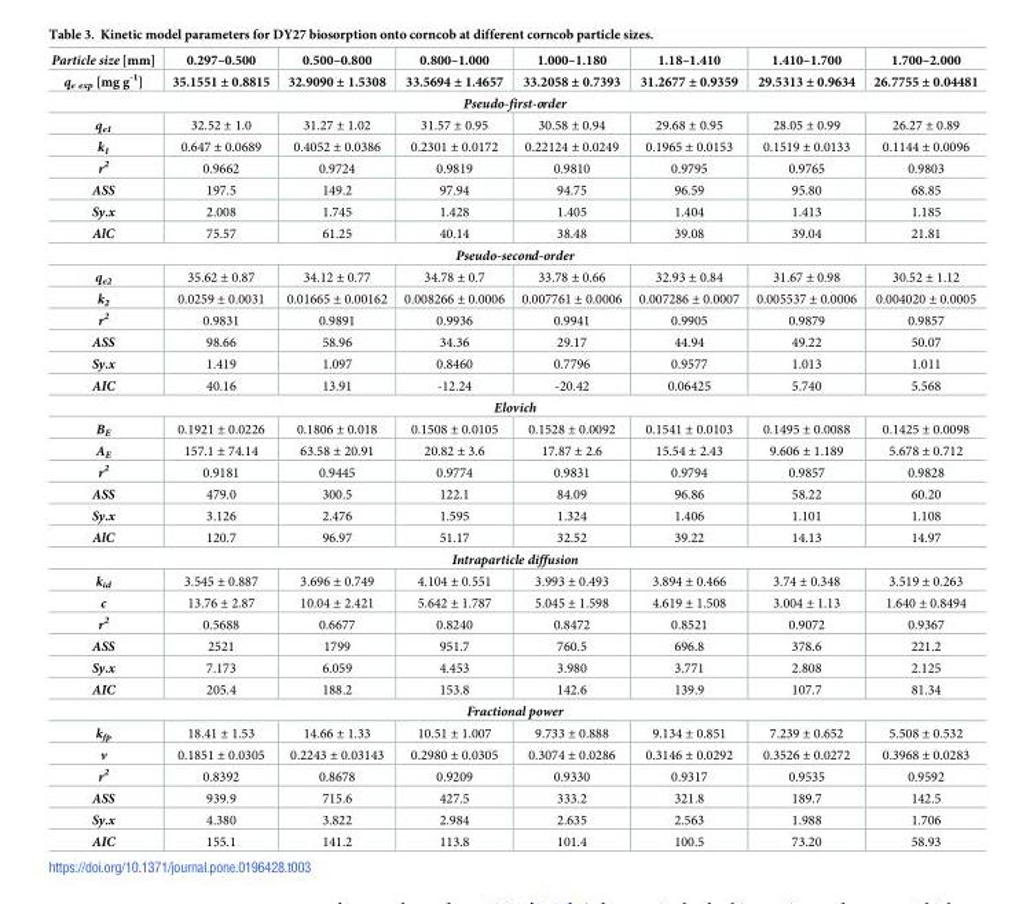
<table><tbody><tr><td>Particle size [mm]</td><td>0.297–0.500</td><td>0.500–0.800</td><td>0.800–1.000</td><td>1.000–1.180</td><td>1.18–1.410</td><td>1.410–1.700</td><td>1.700–2.000</td></tr><tr><td>q<sub>e exp</sub> [mg g<sup>-1</sup>]</td><td>35.1551 ± 0.8815</td><td>32.9090 ± 1.5308</td><td>33.5694 ± 1.4657</td><td>33.2058 ± 0.7393</td><td>31.2677 ± 0.9359</td><td>29.5313 ± 0.9634</td><td>26.7755 ± 0.04481</td></tr><tr><td colspan="8">Pseudo-first-order</td></tr><tr><td>q<sub>e1</sub></td><td>32.52 ± 1.0</td><td>31.27 ± 1.02</td><td>31.57 ± 0.95</td><td>30.58 ± 0.94</td><td>29.68 ± 0.95</td><td>28.05 ± 0.99</td><td>26.27 ± 0.89</td></tr><tr><td>k<sub>1</sub></td><td>0.647 ± 0.0689</td><td>0.4052 ± 0.0386</td><td>0.2301 ± 0.0172</td><td>0.22124 ± 0.0249</td><td>0.1965 ± 0.0153</td><td>0.1519 ± 0.0133</td><td>0.1144 ± 0.0096</td></tr><tr><td>r<sup>2</sup></td><td>0.9662</td><td>0.9724</td><td>0.9819</td><td>0.9810</td><td>0.9795</td><td>0.9765</td><td>0.9803</td></tr><tr><td>ASS</td><td>197.5</td><td>149.2</td><td>97.94</td><td>94.75</td><td>96.59</td><td>95.80</td><td>68.85</td></tr><tr><td>Sy.x</td><td>2.008</td><td>1.745</td><td>1.428</td><td>1.405</td><td>1.404</td><td>1.413</td><td>1.185</td></tr><tr><td>AlC</td><td>75.57</td><td>61.25</td><td>40.14</td><td>38.48</td><td>39.08</td><td>39.04</td><td>21.81</td></tr><tr><td colspan="8">Pseudo-second-order</td></tr><tr><td>q<sub>e2</sub></td><td>35.62 ± 0.87</td><td>34.12 ± 0.77</td><td>34.78 ± 0.7</td><td>33.78 ± 0.66</td><td>32.93 ± 0.84</td><td>31.67 ± 0.98</td><td>30.52 ± 1.12</td></tr><tr><td>k<sub>2</sub></td><td>0.0259 ± 0.0031</td><td>0.01665 ± 0.00162</td><td>0.008266 ± 0.0006</td><td>0.007761 ± 0.0006</td><td>0.007286 ± 0.0007</td><td>0.005537 ± 0.0006</td><td>0.004020 ± 0.0005</td></tr><tr><td>r<sup>2</sup></td><td>0.9831</td><td>0.9891</td><td>0.9936</td><td>0.9941</td><td>0.9905</td><td>0.9879</td><td>0.9857</td></tr><tr><td>ASS</td><td>98.66</td><td>58.96</td><td>34.36</td><td>29.17</td><td>44.94</td><td>49.22</td><td>50.07</td></tr><tr><td>Sy.x</td><td>1.419</td><td>1.097</td><td>0.8460</td><td>0.7796</td><td>0.9577</td><td>1.013</td><td>1.011</td></tr><tr><td>AIC</td><td>40.16</td><td>13.91</td><td>-12.24</td><td>-20.42</td><td>0.06425</td><td>5.740</td><td>5.568</td></tr><tr><td colspan="8">Elovich</td></tr><tr><td>B<sub>E</sub></td><td>0.1921 ± 0.0226</td><td>0.1806 ± 0.018</td><td>0.1508 ± 0.0105</td><td>0.1528 ± 0.0092</td><td>0.1541 ± 0.0103</td><td>0.1495 ± 0.0088</td><td>0.1425 ± 0.0098</td></tr><tr><td>A<sub>E</sub></td><td>157.1 ± 74.14</td><td>63.58 ± 20.91</td><td>20.82 ± 3.6</td><td>17.87 ± 2.6</td><td>15.54 ± 2.43</td><td>9.606 ± 1.189</td><td>5.678 ± 0.712</td></tr><tr><td>r<sup>2</sup></td><td>0.9181</td><td>0.9445</td><td>0.9774</td><td>0.9831</td><td>0.9794</td><td>0.9857</td><td>0.9828</td></tr><tr><td>ASS</td><td>479.0</td><td>300.5</td><td>122.1</td><td>84.09</td><td>96.86</td><td>58.22</td><td>60.20</td></tr><tr><td>Sy.x</td><td>3.126</td><td>2.476</td><td>1.595</td><td>1.324</td><td>1.406</td><td>1.101</td><td>1.108</td></tr><tr><td>AlC</td><td>120.7</td><td>96.97</td><td>51.17</td><td>32.52</td><td>39.22</td><td>14.13</td><td>14.97</td></tr><tr><td colspan="8">Intraparticle diffusion</td></tr><tr><td>k<sub>id</sub></td><td>3.545 ± 0.887</td><td>3.696 ± 0.749</td><td>4.104 ± 0.551</td><td>3.993 ± 0.493</td><td>3.894 ± 0.466</td><td>3.74 ± 0.348</td><td>3.519 ± 0.263</td></tr><tr><td>c</td><td>13.76 ± 2.87</td><td>10.04 ± 2.421</td><td>5.642 ± 1.787</td><td>5.045 ± 1.598</td><td>4.619 ± 1.508</td><td>3.004 ± 1.13</td><td>1.640 ± 0.8494</td></tr><tr><td>r<sup>2</sup></td><td>0.5688</td><td>0.6677</td><td>0.8240</td><td>0.8472</td><td>0.8521</td><td>0.9072</td><td>0.9367</td></tr><tr><td>ASS</td><td>2521</td><td>1799</td><td>951.7</td><td>760.5</td><td>696.8</td><td>378.6</td><td>221.2</td></tr><tr><td>Sy.x</td><td>7.173</td><td>6.059</td><td>4.453</td><td>3.980</td><td>3.771</td><td>2.808</td><td>2.125</td></tr><tr><td>AIC</td><td>205.4</td><td>188.2</td><td>153.8</td><td>142.6</td><td>139.9</td><td>107.7</td><td>81.34</td></tr><tr><td colspan="8">Fractional power</td></tr><tr><td>k<sub>fp</sub></td><td>18.41 ± 1.53</td><td>14.66 ± 1.33</td><td>10.51 ± 1.007</td><td>9.733 ± 0.888</td><td>9.134 ± 0.851</td><td>7.239 ± 0.652</td><td>5.508 ± 0.532</td></tr><tr><td>v</td><td>0.1851 ± 0.0305</td><td>0.2243 ± 0.03143</td><td>0.2980 ± 0.0305</td><td>0.3074 ± 0.0286</td><td>0.3146 ± 0.0292</td><td>0.3526 ± 0.0272</td><td>0.3968 ± 0.0283</td></tr><tr><td>r<sup>2</sup></td><td>0.8392</td><td>0.8678</td><td>0.9209</td><td>0.9330</td><td>0.9317</td><td>0.9535</td><td>0.9592</td></tr><tr><td>ASS</td><td>939.9</td><td>715.6</td><td>427.5</td><td>333.2</td><td>321.8</td><td>189.7</td><td>142.5</td></tr><tr><td>Sy.x</td><td>4.380</td><td>3.822</td><td>2.984</td><td>2.635</td><td>2.563</td><td>1.988</td><td>1.706</td></tr><tr><td>AIC</td><td>155.1</td><td>141.2</td><td>113.8</td><td>101.4</td><td>100.5</td><td>73.20</td><td>58.93</td></tr></tbody></table>